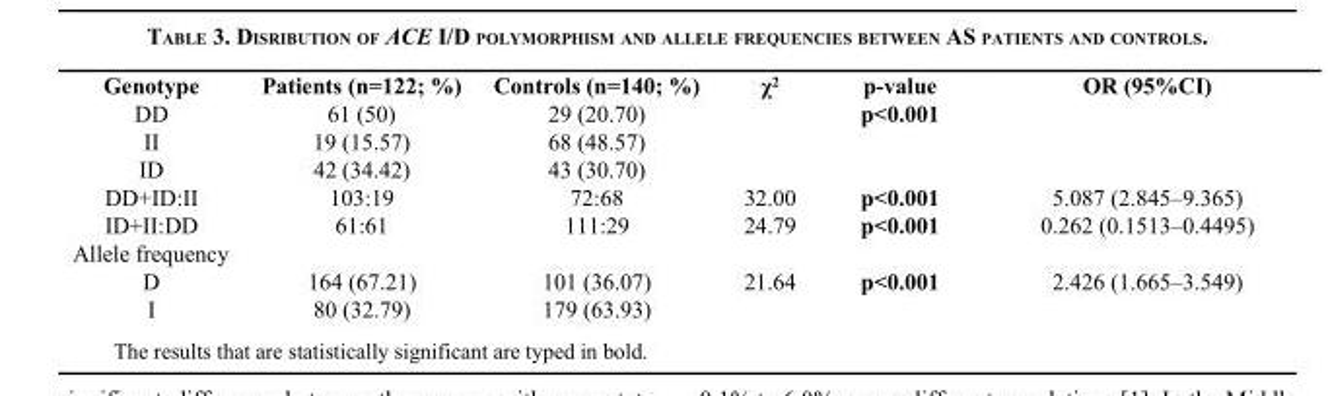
<table><thead><tr><td>Genotype</td><td>Patients (n=122; %)</td><td>Controls (n=140; %)</td><td>χ<sup>2</sup></td><td>p-value</td><td>OR (95%CI)</td></tr></thead><tbody><tr><td>DD</td><td>61 (50)</td><td>29 (20.70)</td><td></td><td>p&lt;0.001</td><td></td></tr><tr><td>II</td><td>19 (15.57)</td><td>68 (48.57)</td><td></td><td></td><td></td></tr><tr><td>ID</td><td>42 (34.42)</td><td>43 (30.70)</td><td></td><td></td><td></td></tr><tr><td>DD+ID:II</td><td>103:19</td><td>72:68</td><td>32.00</td><td>p&lt;0.001</td><td>5.087 (2.845–9.365)</td></tr><tr><td>ID+II:DD</td><td>61:61</td><td>111:29</td><td>24.79</td><td>p&lt;0.001</td><td>0.262 (0.1513–0.4495)</td></tr><tr><td colspan="6">Allele frequency</td></tr><tr><td>D</td><td>164 (67.21)</td><td>101 (36.07)</td><td>21.64</td><td>p&lt;0.001</td><td>2.426 (1.665–3.549)</td></tr><tr><td>I</td><td>80 (32.79)</td><td>179 (63.93)</td><td></td><td></td><td></td></tr></tbody></table>